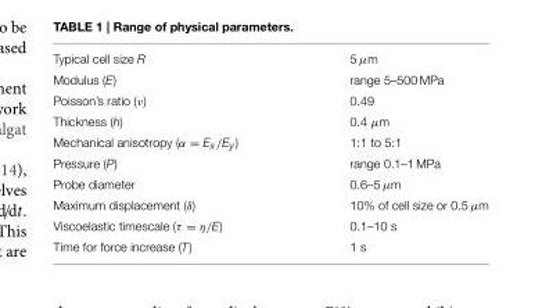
<table><tbody><tr><td>Typical cell size R</td><td>5 µm</td></tr><tr><td>Modulus (E)</td><td>range 5–500 MPa</td></tr><tr><td>Poisson’s ratio (ν)</td><td>0.49</td></tr><tr><td>Thickness (h)</td><td>0.4 µm</td></tr><tr><td>Mechanical anisotropy (α = E<sub>x</sub>/E<sub>y</sub>)</td><td>1:1 to 5:1</td></tr><tr><td>Pressure (P)</td><td>range 0.1–1 MPa</td></tr><tr><td>Probe diameter</td><td>0.6–5 µm</td></tr><tr><td>Maximum displacement (δ)</td><td>10% of cell size or 0.5 µm</td></tr><tr><td>Viscoelastic timescale (τ = η/E)</td><td>0.1–10 s</td></tr><tr><td>Time for force increase (T)</td><td>1 s</td></tr></tbody></table>